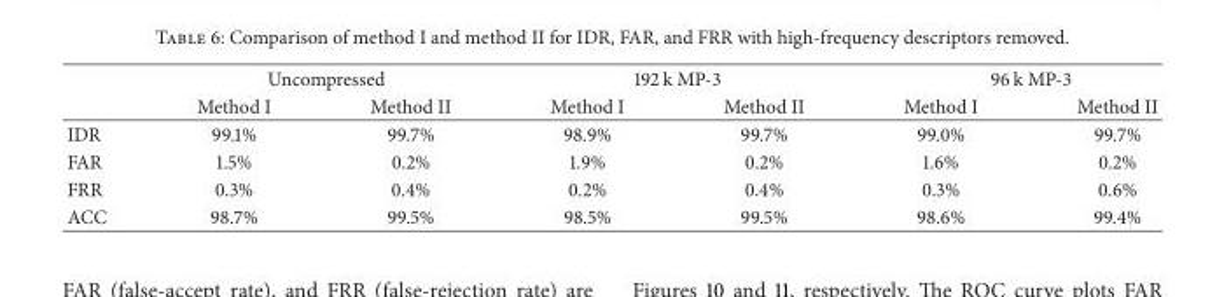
<table><thead><tr><td rowspan="2"></td><td colspan="2">Uncompressed</td><td colspan="2">192 k MP-3</td><td colspan="2">96 k MP-3</td></tr><tr><td>Method I</td><td>Method II</td><td>Method I</td><td>Method II</td><td>Method I</td><td>Method II</td></tr></thead><tbody><tr><td>IDR</td><td>99.1%</td><td>99.7%</td><td>98.9%</td><td>99.7%</td><td>99.0%</td><td>99.7%</td></tr><tr><td>FAR</td><td>1.5%</td><td>0.2%</td><td>1.9%</td><td>0.2%</td><td>1.6%</td><td>0.2%</td></tr><tr><td>FRR</td><td>0.3%</td><td>0.4%</td><td>0.2%</td><td>0.4%</td><td>0.3%</td><td>0.6%</td></tr><tr><td>ACC</td><td>98.7%</td><td>99.5%</td><td>98.5%</td><td>99.5%</td><td>98.6%</td><td>99.4%</td></tr></tbody></table>